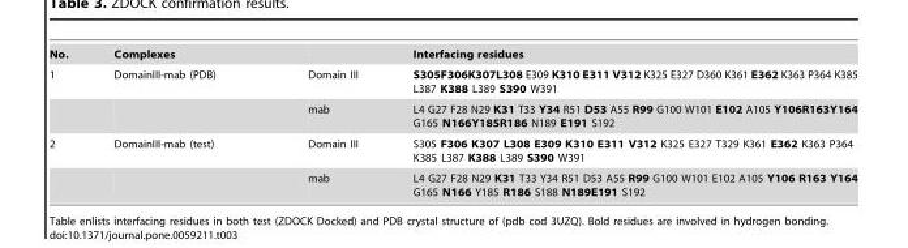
<table><tbody><tr><td>No.</td><td>Complexes</td><td></td><td>Interfacing residues</td></tr><tr><td rowspan="2">1</td><td>DomainIII-mab (PDB)</td><td>Domain III</td><td>S305F306K307L308 E309 K310 E311 V312 K325 E327 D360 K361 E362 K363 P364 K385 L387 K388 L389 S390 W391</td></tr><tr><td></td><td>mab</td><td>L4 G27 F28 N29 K31 T33 Y34 R51 D53 A55 R99 G100 W101 E102 A105 Y106R163Y164 G165 N166Y185R186 N189 E191 S192</td></tr><tr><td rowspan="2">2</td><td>DomainIII-mab (test)</td><td>Domain III</td><td>S305 F306 K307 L308 E309 K310 E311 V312 K325 E327 T329 K361 E362 K363 P364 K385 L387 K388 L389 S390 W391</td></tr><tr><td></td><td>mab</td><td>L4 G27 F28 N29 K31 T33 Y34 R51 D53 A55 R99 G100 W101 E102 A105 Y106 R163 Y164 G165 N166 Y185 R186 S188 N189E191 S192</td></tr></tbody></table>